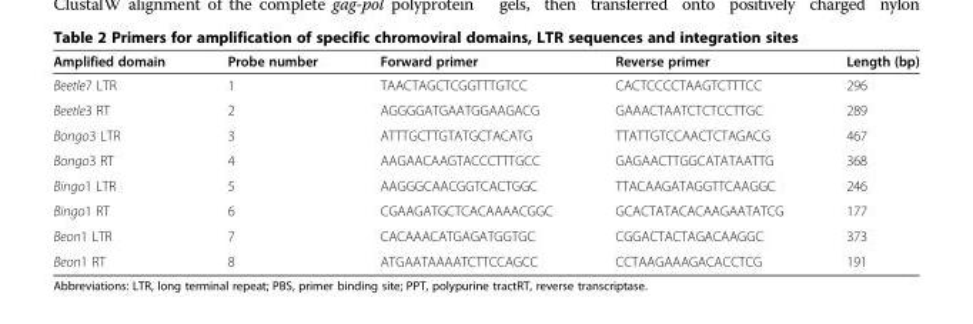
<table><thead><tr><td>Amplified domain</td><td>Probe number</td><td>Forward primer</td><td>Reverse primer</td><td>Length (bp)</td></tr></thead><tbody><tr><td>Beetle7 LTR</td><td>1</td><td>TAACTAGCTCGGTTTGTCC</td><td>CACTCCCCTAAGTCTTTCC</td><td>296</td></tr><tr><td>Beetle3 RT</td><td>2</td><td>AGGGGATGAATGGAAGACG</td><td>GAAACTAATCTCTCCTTGC</td><td>289</td></tr><tr><td>Bongo3 LTR</td><td>3</td><td>ATTTGCTTGTATGCTACATG</td><td>TTATTGTCCAACTCTAGACG</td><td>467</td></tr><tr><td>Bongo3 RT</td><td>4</td><td>AAGAACAAGTACCCTTTGCC</td><td>GAGAACTTGGCATATAATTG</td><td>368</td></tr><tr><td>Bingo1 LTR</td><td>5</td><td>AAGGGCAACGGTCACTGGC</td><td>TTACAAGATAGGTTCAAGGC</td><td>246</td></tr><tr><td>Bingo1 RT</td><td>6</td><td>CGAAGATGCTCACAAAACGGC</td><td>GCACTATACACAAGAATATCG</td><td>177</td></tr><tr><td>Beon1 LTR</td><td>7</td><td>CACAAACATGAGATGGTGC</td><td>CGGACTACTAGACAAGGC</td><td>373</td></tr><tr><td>Beon1 RT</td><td>8</td><td>ATGAATAAAATCTTCCAGCC</td><td>CCTAAGAAAGACACCTCG</td><td>191</td></tr></tbody></table>